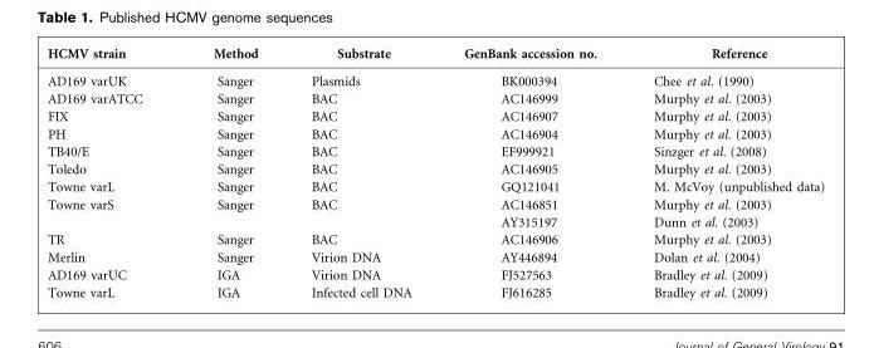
<table><thead><tr><td>HCMV strain</td><td>Method</td><td>Substrate</td><td>GenBank accession no.</td><td>Reference</td></tr></thead><tbody><tr><td>AD169 varUK</td><td>Sanger</td><td>Plasmids</td><td>BK000394</td><td>Chee et al. (1990)</td></tr><tr><td>AD169 varATCC</td><td>Sanger</td><td>BAC</td><td>AC146999</td><td>Murphy et al. (2003)</td></tr><tr><td>FIX</td><td>Sanger</td><td>BAC</td><td>AC146907</td><td>Murphy et al. (2003)</td></tr><tr><td>PH</td><td>Sanger</td><td>BAC</td><td>AC146904</td><td>Murphy et al. (2003)</td></tr><tr><td>TB40/E</td><td>Sanger</td><td>BAC</td><td>EF999921</td><td>Sinzger et al. (2008)</td></tr><tr><td>Toledo</td><td>Sanger</td><td>BAC</td><td>AC146905</td><td>Murphy et al. (2003)</td></tr><tr><td>Towne varL</td><td>Sanger</td><td>BAC</td><td>GQ121041</td><td>M. McVoy (unpublished data)</td></tr><tr><td rowspan="2">Towne varS</td><td>Sanger</td><td>BAC</td><td>AC146851</td><td>Murphy et al. (2003)</td></tr><tr><td></td><td></td><td>AY315197</td><td>Dunn et al. (2003)</td></tr><tr><td>TR</td><td>Sanger</td><td>BAC</td><td>AC146906</td><td>Murphy et al. (2003)</td></tr><tr><td>Merlin</td><td>Sanger</td><td>Virion DNA</td><td>AY446894</td><td>Dolan et al. (2004)</td></tr><tr><td>AD169 varUC</td><td>IGA</td><td>Virion DNA</td><td>FJ527563</td><td>Bradley et al. (2009)</td></tr><tr><td>Towne varL</td><td>IGA</td><td>Infected cell DNA</td><td>FJ616285</td><td>Bradley et al. (2009)</td></tr></tbody></table>